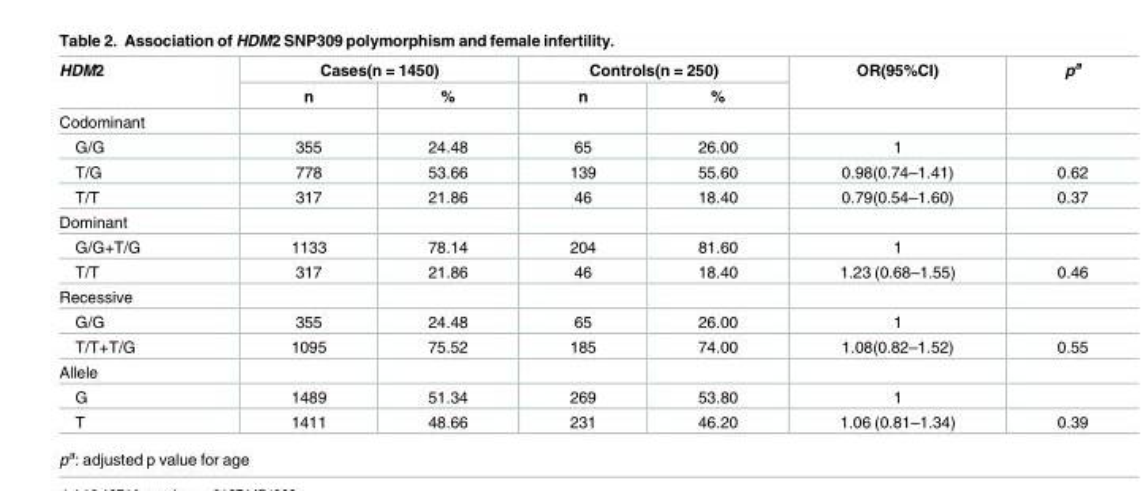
<table><thead><tr><td rowspan="2">HDM2</td><td colspan="2">Cases(n = 1450)</td><td colspan="2">Controls(n = 250)</td><td rowspan="2">OR(95%CI)</td><td rowspan="2">p<sup>a</sup></td></tr><tr><td>n</td><td>%</td><td>n</td><td>%</td></tr></thead><tbody><tr><td colspan="7">Codominant</td></tr><tr><td>G/G</td><td>355</td><td>24.48</td><td>65</td><td>26.00</td><td>1</td><td></td></tr><tr><td>T/G</td><td>778</td><td>53.66</td><td>139</td><td>55.60</td><td>0.98(0.74–1.41)</td><td>0.62</td></tr><tr><td>T/T</td><td>317</td><td>21.86</td><td>46</td><td>18.40</td><td>0.79(0.54–1.60)</td><td>0.37</td></tr><tr><td colspan="7">Dominant</td></tr><tr><td>G/G+T/G</td><td>1133</td><td>78.14</td><td>204</td><td>81.60</td><td>1</td><td></td></tr><tr><td>T/T</td><td>317</td><td>21.86</td><td>46</td><td>18.40</td><td>1.23 (0.68–1.55)</td><td>0.46</td></tr><tr><td colspan="7">Recessive</td></tr><tr><td>G/G</td><td>355</td><td>24.48</td><td>65</td><td>26.00</td><td>1</td><td></td></tr><tr><td>T/T+T/G</td><td>1095</td><td>75.52</td><td>185</td><td>74.00</td><td>1.08(0.82–1.52)</td><td>0.55</td></tr><tr><td colspan="7">Allele</td></tr><tr><td>G</td><td>1489</td><td>51.34</td><td>269</td><td>53.80</td><td>1</td><td></td></tr><tr><td>T</td><td>1411</td><td>48.66</td><td>231</td><td>46.20</td><td>1.06 (0.81–1.34)</td><td>0.39</td></tr></tbody></table>